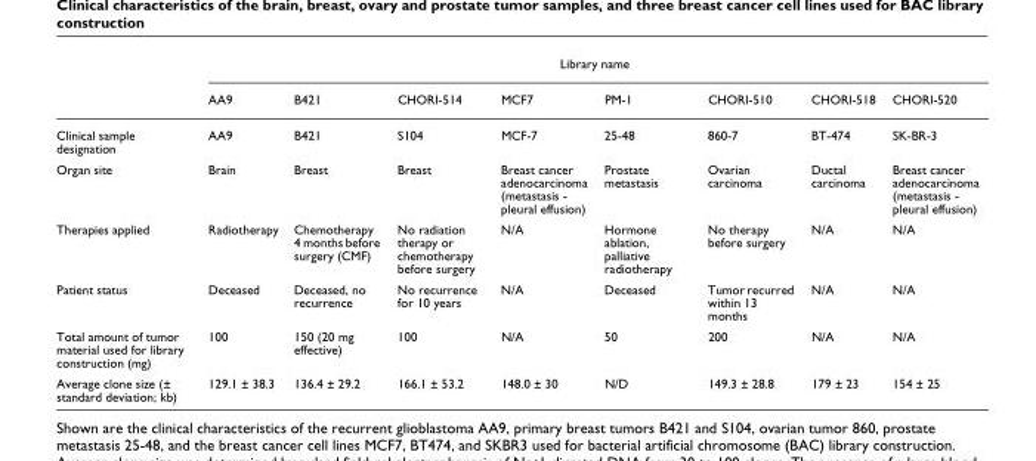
<table><thead><tr><td rowspan="2"></td><td colspan="8">Library name</td></tr><tr><td>AA9</td><td>B421</td><td>CHORI-514</td><td>MCF7</td><td>PM-1</td><td>CHORI-510</td><td>CHORI-518</td><td>CHORI-520</td></tr></thead><tbody><tr><td>Clinical sample designation</td><td>AA9</td><td>B421</td><td>S104</td><td>MCF-7</td><td>25-48</td><td>860-7</td><td>BT-474</td><td>SK-BR-3</td></tr><tr><td>Organ site</td><td>Brain</td><td>Breast</td><td>Breast</td><td>Breast cancer adenocarcinoma (metastasis - pleural effusion)</td><td>Prostate metastasis</td><td>Ovarian carcinoma</td><td>Ductal carcinoma</td><td>Breast cancer adenocarcinoma (metastasis - pleural effusion)</td></tr><tr><td>Therapies applied</td><td>Radiotherapy</td><td>Chemotherapy 4 months before surgery (CMF)</td><td>No radiation therapy or chemotherapy before surgery</td><td>N/A</td><td>Hormone ablation, palliative radiotherapy</td><td>No therapy before surgery</td><td>N/A</td><td>N/A</td></tr><tr><td>Patient status</td><td>Deceased</td><td>Deceased, no recurrence</td><td>No recurrence for 10 years</td><td>N/A</td><td>Deceased</td><td>Tumor recurred within 13 months</td><td>N/A</td><td>N/A</td></tr><tr><td>Total amount of tumor material used for library construction (mg)</td><td>100</td><td>150 (20 mg effective)</td><td>100</td><td>N/A</td><td>50</td><td>200</td><td>N/A</td><td>N/A</td></tr><tr><td>Average clone size (± standard deviation; kb)</td><td>129.1 ± 38.3</td><td>136.4 ± 29.2</td><td>166.1 ± 53.2</td><td>148.0 ± 30</td><td>N/D</td><td>149.3 ± 28.8</td><td>179 ± 23</td><td>154 ± 25</td></tr></tbody></table>